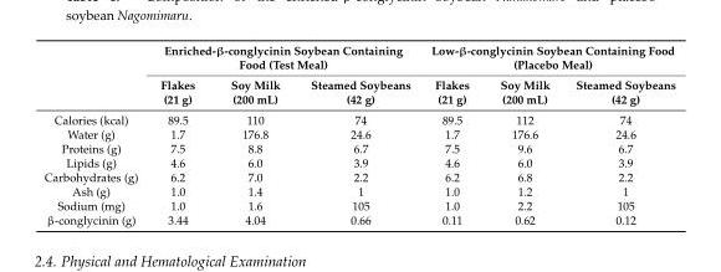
<table><thead><tr><td rowspan="2"></td><td colspan="3">Enriched-β-conglycinin Soybean Containing Food (Test Meal)</td><td colspan="3">Low-β-conglycinin Soybean Containing Food (Placebo Meal)</td></tr><tr><td>Flakes (21 g)</td><td>Soy Milk (200 mL)</td><td>Steamed Soybeans (42 g)</td><td>Flakes (21 g)</td><td>Soy Milk (200 mL)</td><td>Steamed Soybeans (42 g)</td></tr></thead><tbody><tr><td>Calories (kcal)</td><td>89.5</td><td>110</td><td>74</td><td>89.5</td><td>112</td><td>74</td></tr><tr><td>Water (g)</td><td>1.7</td><td>176.8</td><td>24.6</td><td>1.7</td><td>176.6</td><td>24.6</td></tr><tr><td>Proteins (g)</td><td>7.5</td><td>8.8</td><td>6.7</td><td>7.5</td><td>9.6</td><td>6.7</td></tr><tr><td>Lipids (g)</td><td>4.6</td><td>6.0</td><td>3.9</td><td>4.6</td><td>6.0</td><td>3.9</td></tr><tr><td>Carbohydrates (g)</td><td>6.2</td><td>7.0</td><td>2.2</td><td>6.2</td><td>6.8</td><td>2.2</td></tr><tr><td>Ash (g)</td><td>1.0</td><td>1.4</td><td>1</td><td>1.0</td><td>1.2</td><td>1</td></tr><tr><td>Sodium (mg)</td><td>1.0</td><td>1.6</td><td>105</td><td>1.0</td><td>2.2</td><td>105</td></tr><tr><td>β-conglycinin (g)</td><td>3.44</td><td>4.04</td><td>0.66</td><td>0.11</td><td>0.62</td><td>0.12</td></tr></tbody></table>